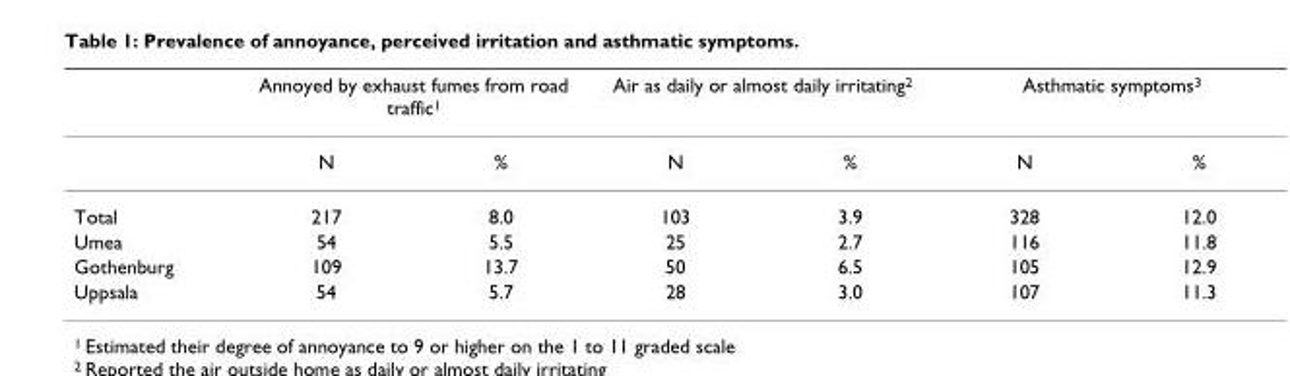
<table><thead><tr><td rowspan="2"></td><td colspan="2">Annoyed by exhaust fumes from road traffic<sup>1</sup></td><td colspan="2">Air as daily or almost daily irritating<sup>2</sup></td><td colspan="2">Asthmatic symptoms<sup>3</sup></td></tr><tr><td>N</td><td>%</td><td>N</td><td>%</td><td>N</td><td>%</td></tr></thead><tbody><tr><td>Total</td><td>217</td><td>8.0</td><td>103</td><td>3.9</td><td>328</td><td>12.0</td></tr><tr><td>Umea</td><td>54</td><td>5.5</td><td>25</td><td>2.7</td><td>116</td><td>11.8</td></tr><tr><td>Gothenburg</td><td>109</td><td>13.7</td><td>50</td><td>6.5</td><td>105</td><td>12.9</td></tr><tr><td>Uppsala</td><td>54</td><td>5.7</td><td>28</td><td>3.0</td><td>107</td><td>11.3</td></tr></tbody></table>